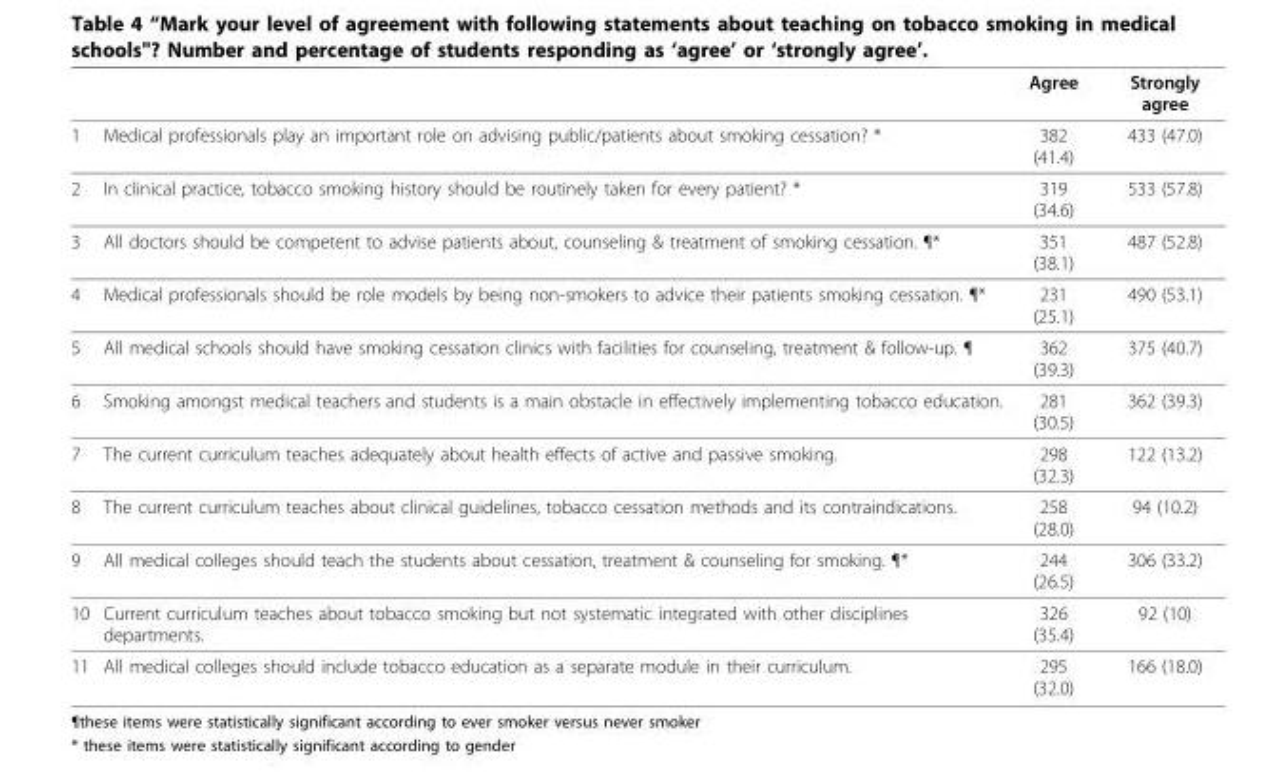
<table><thead><tr><td></td><td></td><td>Agree</td><td>Strongly agree</td></tr></thead><tbody><tr><td>1</td><td>Medical professionals play an important role on advising public/patients about smoking cessation? *</td><td>382 (41.4)</td><td>433 (47.0)</td></tr><tr><td>2</td><td>In clinical practice, tobacco smoking history should be routinely taken for every patient? *</td><td>319 (34.6)</td><td>533 (57.8)</td></tr><tr><td>3</td><td>All doctors should be competent to advise patients about, counseling &amp; treatment of smoking cessation. ¶*</td><td>351 (38.1)</td><td>487 (52.8)</td></tr><tr><td>4</td><td>Medical professionals should be role models by being non-smokers to advice their patients smoking cessation. ¶*</td><td>231 (25.1)</td><td>490 (53.1)</td></tr><tr><td>5</td><td>All medical schools should have smoking cessation clinics with facilities for counseling, treatment &amp; follow-up. ¶</td><td>362 (39.3)</td><td>375 (40.7)</td></tr><tr><td>6</td><td>Smoking amongst medical teachers and students is a main obstacle in effectively implementing tobacco education.</td><td>281 (30.5)</td><td>362 (39.3)</td></tr><tr><td>7</td><td>The current curriculum teaches adequately about health effects of active and passive smoking.</td><td>298 (32.3)</td><td>122 (13.2)</td></tr><tr><td>8</td><td>The current curriculum teaches about clinical guidelines, tobacco cessation methods and its contraindications.</td><td>258 (28.0)</td><td>94 (10.2)</td></tr><tr><td>9</td><td>All medical colleges should teach the students about cessation, treatment &amp; counseling for smoking. ¶*</td><td>244 (26.5)</td><td>306 (33.2)</td></tr><tr><td>10</td><td>Current curriculum teaches about tobacco smoking but not systematic integrated with other disciplines departments.</td><td>326 (35.4)</td><td>92 (10)</td></tr><tr><td>11</td><td>All medical colleges should include tobacco education as a separate module in their curriculum.</td><td>295 (32.0)</td><td>166 (18.0)</td></tr></tbody></table>